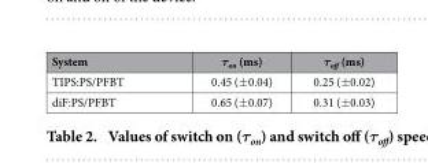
<table><thead><tr><td>System</td><td>τon (ms)</td><td>τ<sub>off</sub> (ms)</td></tr></thead><tbody><tr><td>TIPS:PS/PFBT</td><td>0.45 (± 0.04)</td><td>0.25 (± 0.02)</td></tr><tr><td>diF:PS/PFBT</td><td>0.65 (± 0.07)</td><td>0.31 (± 0.03)</td></tr></tbody></table>